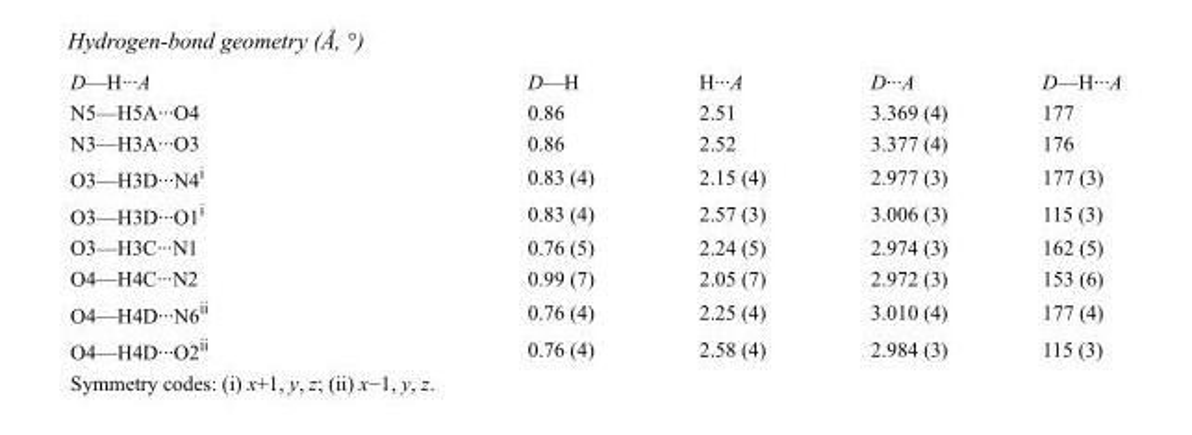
<table><tbody><tr><td>D—H···A</td><td>D—H</td><td>H···A</td><td>D···A</td><td>D—H···A</td></tr><tr><td>N5—H5A···O4</td><td>0.86</td><td>2.51</td><td>3.369 (4)</td><td>177</td></tr><tr><td>N3—H3A···O3</td><td>0.86</td><td>2.52</td><td>3.377 (4)</td><td>176</td></tr><tr><td>O3—H3D···N4<sup>i</sup></td><td>0.83 (4)</td><td>2.15 (4)</td><td>2.977 (3)</td><td>177 (3)</td></tr><tr><td>O3—H3D···O1<sup>i</sup></td><td>0.83 (4)</td><td>2.57 (3)</td><td>3.006 (3)</td><td>115 (3)</td></tr><tr><td>O3—H3C···N1</td><td>0.76 (5)</td><td>2.24 (5)</td><td>2.974 (3)</td><td>162 (5)</td></tr><tr><td>O4—H4C···N2</td><td>0.99 (7)</td><td>2.05 (7)</td><td>2.972 (3)</td><td>153 (6)</td></tr><tr><td>O4—H4D···N6<sup>ii</sup></td><td>0.76 (4)</td><td>2.25 (4)</td><td>3.010 (4)</td><td>177 (4)</td></tr><tr><td>O4—H4D···O2<sup>ii</sup></td><td>0.76 (4)</td><td>2.58 (4)</td><td>2.984 (3)</td><td>115 (3)</td></tr></tbody></table>